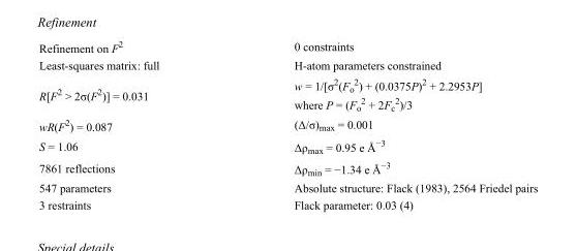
<table><tbody><tr><td>Refinement on F<sup>2</sup></td><td>0 constraints</td></tr><tr><td>Least-squares matrix: full</td><td>H-atom parameters constrained</td></tr><tr><td>R[F<sup>2</sup> &gt; 2σ(F<sup>2</sup>)] = 0.031</td><td>w = 1/[σ<sup>2</sup>(F<sub>o</sub> <sup>2</sup>) + (0.0375P)<sup>2</sup> + 2.2953P] where P = (F<sub>o</sub> <sup>2</sup> + 2F<sub>c</sub> <sup>2</sup>)/3</td></tr><tr><td>wR(F<sup>2</sup>) = 0.087</td><td>(Δ/σ)<sub>max</sub> = 0.001</td></tr><tr><td>S = 1.06</td><td>Δρ<sub>max</sub> = 0.95 e Å<sup>−3</sup></td></tr><tr><td>7861 reflections</td><td>Δρ<sub>min</sub> = −1.34 e Å<sup>−3</sup></td></tr><tr><td>547 parameters</td><td>Absolute structure: Flack (1983), 2564 Friedel pairs</td></tr><tr><td>3 restraints</td><td>Flack parameter: 0.03 (4)</td></tr></tbody></table>